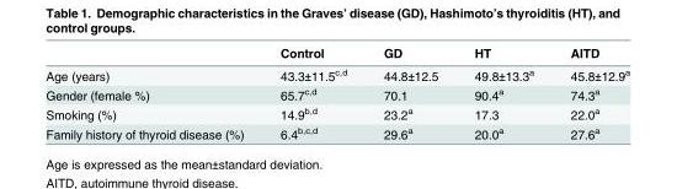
<table><thead><tr><td></td><td>Control</td><td>GD</td><td>HT</td><td>AITD</td></tr></thead><tbody><tr><td>Age (years)</td><td>43.3±11.5<sup>c,d</sup></td><td>44.8±12.5</td><td>49.8±13.3<sup>a</sup></td><td>45.8±12.9<sup>a</sup></td></tr><tr><td>Gender (female %)</td><td>65.7<sup>c,d</sup></td><td>70.1</td><td>90.4<sup>a</sup></td><td>74.3<sup>a</sup></td></tr><tr><td>Smoking (%)</td><td>14.9<sup>b,d</sup></td><td>23.2<sup>a</sup></td><td>17.3</td><td>22.0<sup>a</sup></td></tr><tr><td>Family history of thyroid disease (%)</td><td>6.4<sup>b,c,d</sup></td><td>29.6<sup>a</sup></td><td>20.0<sup>a</sup></td><td>27.6<sup>a</sup></td></tr></tbody></table>